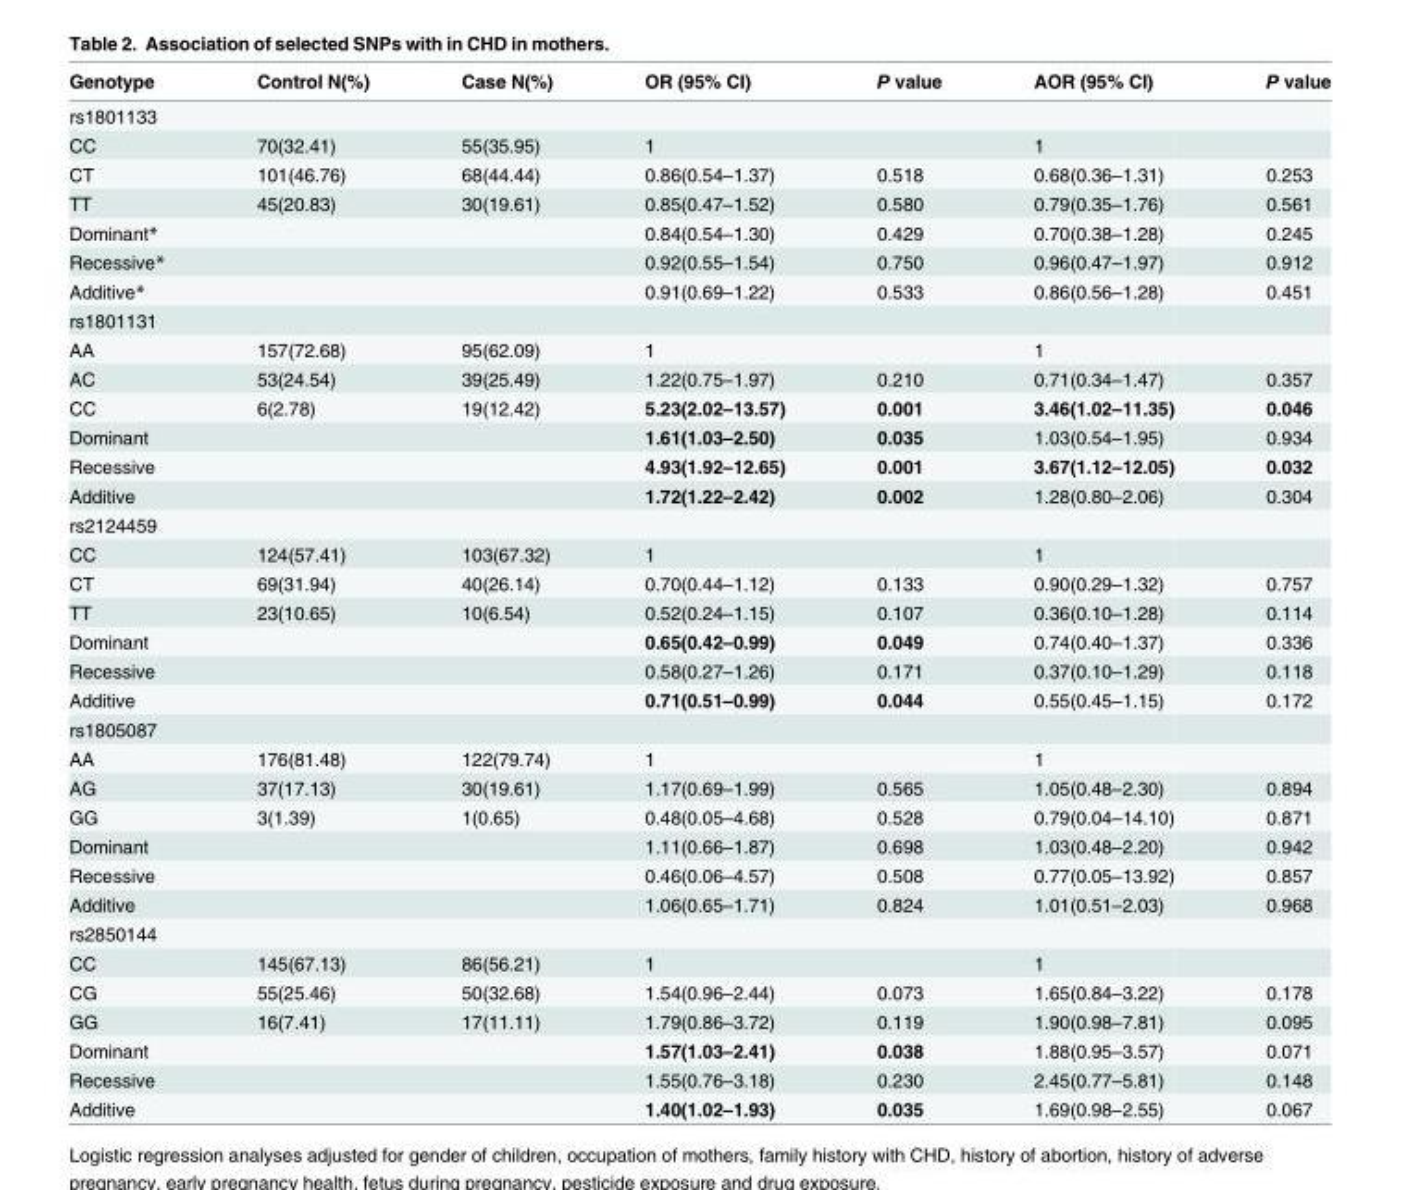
<table><thead><tr><td>Genotype</td><td>Control N(%)</td><td>Case N(%)</td><td>OR (95% CI)</td><td>P value</td><td>AOR (95% CI)</td><td>P value</td></tr></thead><tbody><tr><td colspan="7">rs1801133</td></tr><tr><td>CC</td><td>70(32.41)</td><td>55(35.95)</td><td>1</td><td></td><td>1</td><td></td></tr><tr><td>CT</td><td>101(46.76)</td><td>68(44.44)</td><td>0.86(0.54–1.37)</td><td>0.518</td><td>0.68(0.36–1.31)</td><td>0.253</td></tr><tr><td>TT</td><td>45(20.83)</td><td>30(19.61)</td><td>0.85(0.47–1.52)</td><td>0.580</td><td>0.79(0.35–1.76)</td><td>0.561</td></tr><tr><td>Dominant*</td><td></td><td></td><td>0.84(0.54–1.30)</td><td>0.429</td><td>0.70(0.38–1.28)</td><td>0.245</td></tr><tr><td>Recessive*</td><td></td><td></td><td>0.92(0.55–1.54)</td><td>0.750</td><td>0.96(0.47–1.97)</td><td>0.912</td></tr><tr><td>Additive*</td><td></td><td></td><td>0.91(0.69–1.22)</td><td>0.533</td><td>0.86(0.56–1.28)</td><td>0.451</td></tr><tr><td colspan="7">rs1801131</td></tr><tr><td>AA</td><td>157(72.68)</td><td>95(62.09)</td><td>1</td><td></td><td>1</td><td></td></tr><tr><td>AC</td><td>53(24.54)</td><td>39(25.49)</td><td>1.22(0.75–1.97)</td><td>0.210</td><td>0.71(0.34–1.47)</td><td>0.357</td></tr><tr><td>CC</td><td>6(2.78)</td><td>19(12.42)</td><td>5.23(2.02–13.57)</td><td>0.001</td><td>3.46(1.02–11.35)</td><td>0.046</td></tr><tr><td>Dominant</td><td></td><td></td><td>1.61(1.03–2.50)</td><td>0.035</td><td>1.03(0.54–1.95)</td><td>0.934</td></tr><tr><td>Recessive</td><td></td><td></td><td>4.93(1.92–12.65)</td><td>0.001</td><td>3.67(1.12–12.05)</td><td>0.032</td></tr><tr><td>Additive</td><td></td><td></td><td>1.72(1.22–2.42)</td><td>0.002</td><td>1.28(0.80–2.06)</td><td>0.304</td></tr><tr><td colspan="7">rs2124459</td></tr><tr><td>CC</td><td>124(57.41)</td><td>103(67.32)</td><td>1</td><td></td><td>1</td><td></td></tr><tr><td>CT</td><td>69(31.94)</td><td>40(26.14)</td><td>0.70(0.44–1.12)</td><td>0.133</td><td>0.90(0.29–1.32)</td><td>0.757</td></tr><tr><td>TT</td><td>23(10.65)</td><td>10(6.54)</td><td>0.52(0.24–1.15)</td><td>0.107</td><td>0.36(0.10–1.28)</td><td>0.114</td></tr><tr><td>Dominant</td><td></td><td></td><td>0.65(0.42–0.99)</td><td>0.049</td><td>0.74(0.40–1.37)</td><td>0.336</td></tr><tr><td>Recessive</td><td></td><td></td><td>0.58(0.27–1.26)</td><td>0.171</td><td>0.37(0.10–1.29)</td><td>0.118</td></tr><tr><td>Additive</td><td></td><td></td><td>0.71(0.51–0.99)</td><td>0.044</td><td>0.55(0.45–1.15)</td><td>0.172</td></tr><tr><td colspan="7">rs1805087</td></tr><tr><td>AA</td><td>176(81.48)</td><td>122(79.74)</td><td>1</td><td></td><td>1</td><td></td></tr><tr><td>AG</td><td>37(17.13)</td><td>30(19.61)</td><td>1.17(0.69–1.99)</td><td>0.565</td><td>1.05(0.48–2.30)</td><td>0.894</td></tr><tr><td>GG</td><td>3(1.39)</td><td>1(0.65)</td><td>0.48(0.05–4.68)</td><td>0.528</td><td>0.79(0.04–14.10)</td><td>0.871</td></tr><tr><td>Dominant</td><td></td><td></td><td>1.11(0.66–1.87)</td><td>0.698</td><td>1.03(0.48–2.20)</td><td>0.942</td></tr><tr><td>Recessive</td><td></td><td></td><td>0.46(0.06–4.57)</td><td>0.508</td><td>0.77(0.05–13.92)</td><td>0.857</td></tr><tr><td>Additive</td><td></td><td></td><td>1.06(0.65–1.71)</td><td>0.824</td><td>1.01(0.51–2.03)</td><td>0.968</td></tr><tr><td colspan="7">rs2850144</td></tr><tr><td>CC</td><td>145(67.13)</td><td>86(56.21)</td><td>1</td><td></td><td>1</td><td></td></tr><tr><td>CG</td><td>55(25.46)</td><td>50(32.68)</td><td>1.54(0.96–2.44)</td><td>0.073</td><td>1.65(0.84–3.22)</td><td>0.178</td></tr><tr><td>GG</td><td>16(7.41)</td><td>17(11.11)</td><td>1.79(0.86–3.72)</td><td>0.119</td><td>1.90(0.98–7.81)</td><td>0.095</td></tr><tr><td>Dominant</td><td></td><td></td><td>1.57(1.03–2.41)</td><td>0.038</td><td>1.88(0.95–3.57)</td><td>0.071</td></tr><tr><td>Recessive</td><td></td><td></td><td>1.55(0.76–3.18)</td><td>0.230</td><td>2.45(0.77–5.81)</td><td>0.148</td></tr><tr><td>Additive</td><td></td><td></td><td>1.40(1.02–1.93)</td><td>0.035</td><td>1.69(0.98–2.55)</td><td>0.067</td></tr></tbody></table>